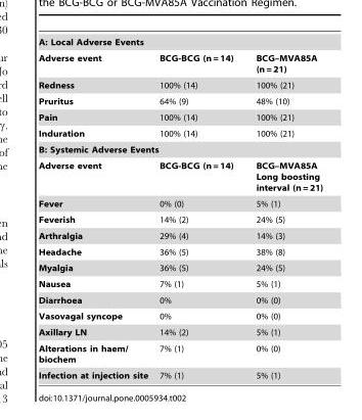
<table><tbody><tr><td colspan="3">A: Local Adverse Events</td></tr><tr><td>Adverse event</td><td>BCG-BCG (n = 14)</td><td>BCG–MVA85A (n = 21)</td></tr><tr><td>Redness</td><td>100% (14)</td><td>100% (21)</td></tr><tr><td>Pruritus</td><td>64% (9)</td><td>48% (10)</td></tr><tr><td>Pain</td><td>100% (14)</td><td>100% (21)</td></tr><tr><td>Induration</td><td>100% (14)</td><td>100% (21)</td></tr><tr><td colspan="3">B: Systemic Adverse Events</td></tr><tr><td>Adverse event</td><td>BCG-BCG (n = 14)</td><td>BCG–MVA85A Long boosting interval (n = 21)</td></tr><tr><td>Fever</td><td>0% (0)</td><td>5% (1)</td></tr><tr><td>Feverish</td><td>14% (2)</td><td>24% (5)</td></tr><tr><td>Arthralgia</td><td>29% (4)</td><td>14% (3)</td></tr><tr><td>Headache</td><td>36% (5)</td><td>38% (8)</td></tr><tr><td>Myalgia</td><td>36% (5)</td><td>24% (5)</td></tr><tr><td>Nausea</td><td>7% (1)</td><td>5% (1)</td></tr><tr><td>Diarrhoea</td><td>0%</td><td>0% (0)</td></tr><tr><td>Vasovagal syncope</td><td>0%</td><td>0% (0)</td></tr><tr><td>Axillary LN</td><td>14% (2)</td><td>5% (1)</td></tr><tr><td>Alterations in haem/ biochem</td><td>7% (1)</td><td>0% (0)</td></tr><tr><td>Infection at injection site</td><td>7% (1)</td><td>5% (1)</td></tr></tbody></table>